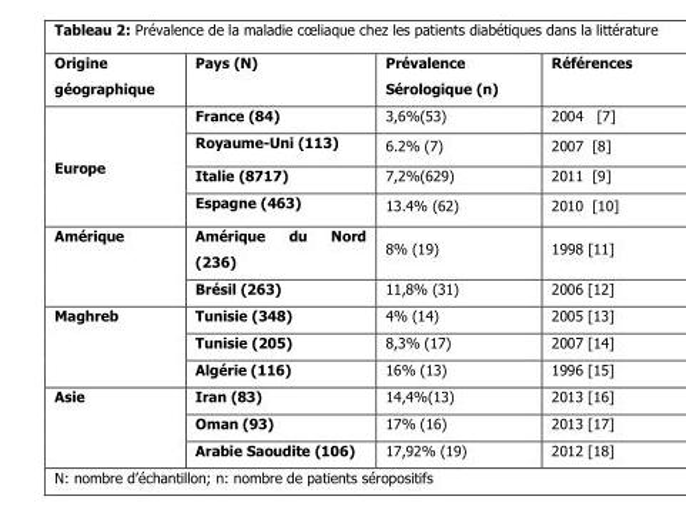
<table><thead><tr><td>Origine géographique</td><td>Pays (N)</td><td>Prévalence Sérologique (n)</td><td>Références</td></tr></thead><tbody><tr><td rowspan="4">Europe</td><td>France (84)</td><td>3,6%(53)</td><td>2004 [7]</td></tr><tr><td>Royaume-Uni (113)</td><td>6.2% (7)</td><td>2007 [8]</td></tr><tr><td>Italie (8717)</td><td>7,2%(629)</td><td>2011 [9]</td></tr><tr><td>Espagne (463)</td><td>13.4% (62)</td><td>2010 [10]</td></tr><tr><td rowspan="2">Amérique</td><td>Amérique du Nord (236)</td><td>8% (19)</td><td>1998 [11]</td></tr><tr><td>Brésil (263)</td><td>11,8% (31)</td><td>2006 [12]</td></tr><tr><td rowspan="3">Maghreb</td><td>Tunisie (348)</td><td>4% (14)</td><td>2005 [13]</td></tr><tr><td>Tunisie (205)</td><td>8,3% (17)</td><td>2007 [14]</td></tr><tr><td>Algérie (116)</td><td>16% (13)</td><td>1996 [15]</td></tr><tr><td rowspan="3">Asie</td><td>Iran (83)</td><td>14,4%(13)</td><td>2013 [16]</td></tr><tr><td>Oman (93)</td><td>17% (16)</td><td>2013 [17]</td></tr><tr><td>Arabie Saoudite (106)</td><td>17,92% (19)</td><td>2012 [18]</td></tr></tbody></table>